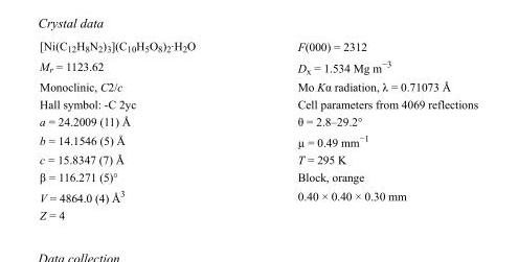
<table><tbody><tr><td>[Ni(C<sub>12</sub>H<sub>8</sub>N<sub>2</sub>)<sub>3</sub>](C<sub>10</sub>H<sub>5</sub>O<sub>8</sub>)<sub>2</sub>·H<sub>2</sub>O</td><td>F(000) = 2312</td></tr><tr><td>M<sub>r</sub> = 1123.62</td><td>D<sub>x</sub> = 1.534 Mg m<sup>−3</sup></td></tr><tr><td>Monoclinic, C2/c</td><td>Mo Kα radiation, λ = 0.71073 Å</td></tr><tr><td>Hall symbol: -C 2yc</td><td>Cell parameters from 4069 reflections</td></tr><tr><td>a = 24.2009 (11) Å</td><td>θ = 2.8–29.2°</td></tr><tr><td>b = 14.1546 (5) Å</td><td>µ = 0.49 mm<sup>−1</sup></td></tr><tr><td>c = 15.8347 (7) Å</td><td>T = 295 K</td></tr><tr><td>β = 116.271 (5)°</td><td>Block, orange</td></tr><tr><td>V = 4864.0 (4) Å<sup>3</sup></td><td>0.40 × 0.40 × 0.30 mm</td></tr><tr><td>Z = 4</td><td></td></tr></tbody></table>